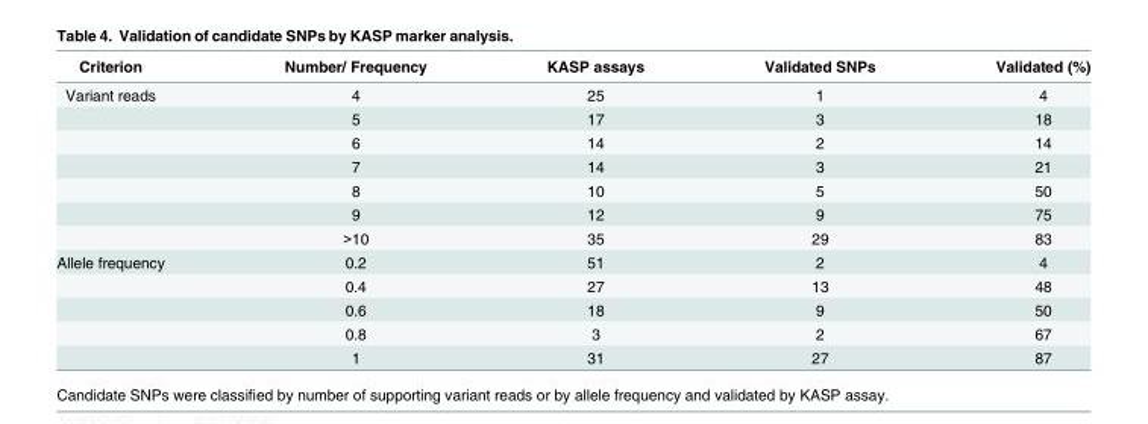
<table><thead><tr><td>Criterion</td><td>Number/ Frequency</td><td>KASP assays</td><td>Validated SNPs</td><td>Validated (%)</td></tr></thead><tbody><tr><td rowspan="7">Variant reads</td><td>4</td><td>25</td><td>1</td><td>4</td></tr><tr><td>5</td><td>17</td><td>3</td><td>18</td></tr><tr><td>6</td><td>14</td><td>2</td><td>14</td></tr><tr><td>7</td><td>14</td><td>3</td><td>21</td></tr><tr><td>8</td><td>10</td><td>5</td><td>50</td></tr><tr><td>9</td><td>12</td><td>9</td><td>75</td></tr><tr><td>&gt;10</td><td>35</td><td>29</td><td>83</td></tr><tr><td rowspan="5">Allele frequency</td><td>0.2</td><td>51</td><td>2</td><td>4</td></tr><tr><td>0.4</td><td>27</td><td>13</td><td>48</td></tr><tr><td>0.6</td><td>18</td><td>9</td><td>50</td></tr><tr><td>0.8</td><td>3</td><td>2</td><td>67</td></tr><tr><td>1</td><td>31</td><td>27</td><td>87</td></tr></tbody></table>